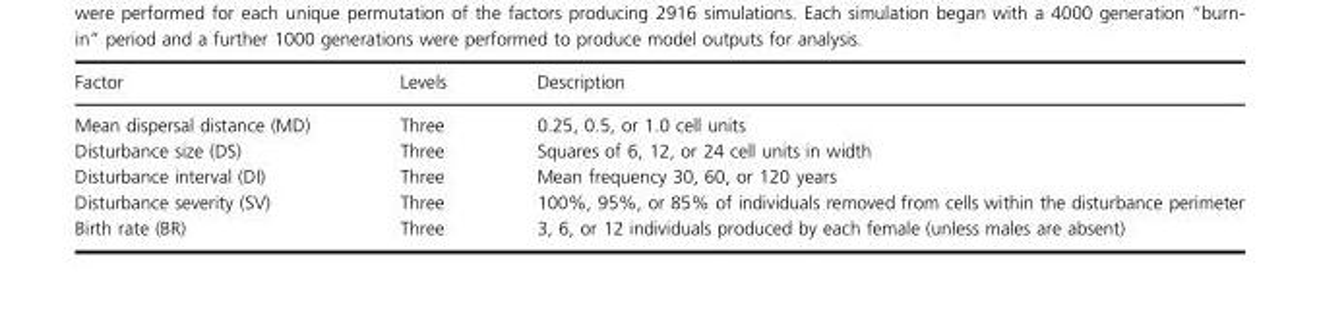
<table><thead><tr><td>Factor</td><td>Levels</td><td>Description</td></tr></thead><tbody><tr><td>Mean dispersal distance (MD)</td><td>Three</td><td>0.25, 0.5, or 1.0 cell units</td></tr><tr><td>Disturbance size (DS)</td><td>Three</td><td>Squares of 6, 12, or 24 cell units in width</td></tr><tr><td>Disturbance interval (DI)</td><td>Three</td><td>Mean frequency 30, 60, or 120 years</td></tr><tr><td>Disturbance severity (SV)</td><td>Three</td><td>100%, 95%, or 85% of individuals removed from cells within the disturbance perimeter</td></tr><tr><td>Birth rate (BR)</td><td>Three</td><td>3, 6, or 12 individuals produced by each female (unless males are absent)</td></tr></tbody></table>